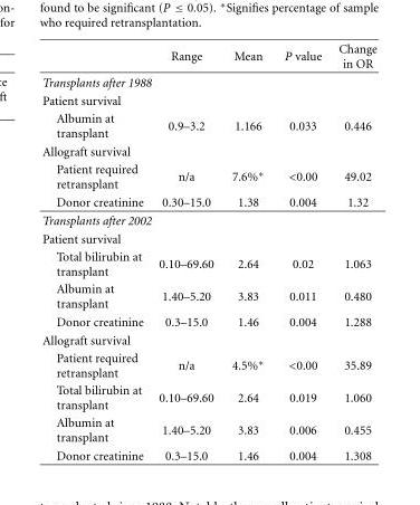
<table><thead><tr><td></td><td>Range</td><td>Mean</td><td>P value</td><td>Change in OR</td></tr></thead><tbody><tr><td colspan="5">Transplants after 1988</td></tr><tr><td colspan="5">Patient survival</td></tr><tr><td>Albumin at transplant</td><td>0.9–3.2</td><td>1.166</td><td>0.033</td><td>0.446</td></tr><tr><td colspan="5">Allograft survival</td></tr><tr><td>Patient required retransplant</td><td>n/a</td><td>7.6%∗</td><td>&lt;0.00</td><td>49.02</td></tr><tr><td>Donor creatinine</td><td>0.30–15.0</td><td>1.38</td><td>0.004</td><td>1.32</td></tr><tr><td colspan="5">Transplants after 2002</td></tr><tr><td colspan="5">Patient survival</td></tr><tr><td>Total bilirubin at transplant</td><td>0.10–69.60</td><td>2.64</td><td>0.02</td><td>1.063</td></tr><tr><td>Albumin at transplant</td><td>1.40–5.20</td><td>3.83</td><td>0.011</td><td>0.480</td></tr><tr><td>Donor creatinine</td><td>0.3–15.0</td><td>1.46</td><td>0.004</td><td>1.288</td></tr><tr><td colspan="5">Allograft survival</td></tr><tr><td>Patient required retransplant</td><td>n/a</td><td>4.5%∗</td><td>&lt;0.00</td><td>35.89</td></tr><tr><td>Total bilirubin at transplant</td><td>0.10–69.60</td><td>2.64</td><td>0.019</td><td>1.060</td></tr><tr><td>Albumin at transplant</td><td>1.40–5.20</td><td>3.83</td><td>0.006</td><td>0.455</td></tr><tr><td>Donor creatinine</td><td>0.3–15.0</td><td>1.46</td><td>0.004</td><td>1.308</td></tr></tbody></table>